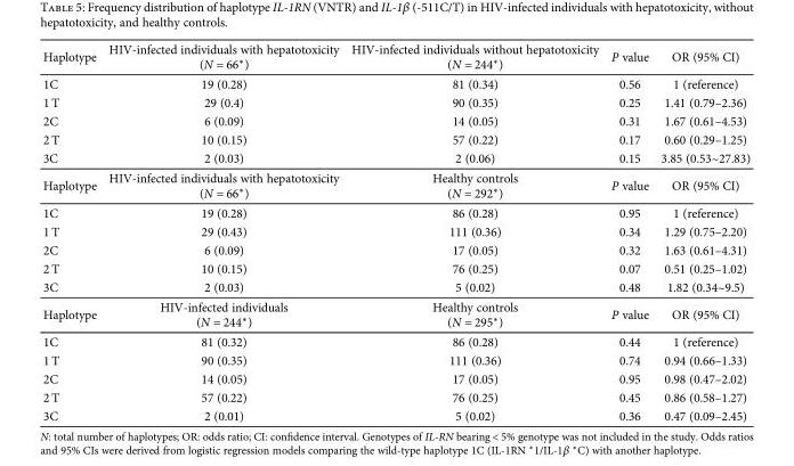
<table><tbody><tr><td>Haplotype</td><td>HIV-infected individuals with hepatotoxicity (N = 66∗)</td><td>HIV-infected individuals without hepatotoxicity (N = 244∗)</td><td>P value</td><td>OR (95% CI)</td></tr><tr><td>1C</td><td>19 (0.28)</td><td>81 (0.34)</td><td>0.56</td><td>1 (reference)</td></tr><tr><td>1 T</td><td>29 (0.4)</td><td>90 (0.35)</td><td>0.25</td><td>1.41 (0.79–2.36)</td></tr><tr><td>2C</td><td>6 (0.09)</td><td>14 (0.05)</td><td>0.31</td><td>1.67 (0.61–4.53)</td></tr><tr><td>2 T</td><td>10 (0.15)</td><td>57 (0.22)</td><td>0.17</td><td>0.60 (0.29–1.25)</td></tr><tr><td>3C</td><td>2 (0.03)</td><td>2 (0.06)</td><td>0.15</td><td>3.85 (0.53~27.83)</td></tr><tr><td>Haplotype</td><td>HIV-infected individuals with hepatotoxicity (N = 66∗)</td><td>Healthy controls (N = 292∗)</td><td>P value</td><td>OR (95% CI)</td></tr><tr><td>1C</td><td>19 (0.28)</td><td>86 (0.28)</td><td>0.95</td><td>1 (reference)</td></tr><tr><td>1 T</td><td>29 (0.43)</td><td>111 (0.36)</td><td>0.34</td><td>1.29 (0.75–2.20)</td></tr><tr><td>2C</td><td>6 (0.09)</td><td>17 (0.05)</td><td>0.32</td><td>1.63 (0.61–4.31)</td></tr><tr><td>2 T</td><td>10 (0.15)</td><td>76 (0.25)</td><td>0.07</td><td>0.51 (0.25–1.02)</td></tr><tr><td>3C</td><td>2 (0.03)</td><td>5 (0.02)</td><td>0.48</td><td>1.82 (0.34~9.5)</td></tr><tr><td>Haplotype</td><td>HIV-infected individuals (N = 244∗)</td><td>Healthy controls (N = 295∗)</td><td>P value</td><td>OR (95% CI)</td></tr><tr><td>1C</td><td>81 (0.32)</td><td>86 (0.28)</td><td>0.44</td><td>1 (reference)</td></tr><tr><td>1 T</td><td>90 (0.35)</td><td>111 (0.36)</td><td>0.74</td><td>0.94 (0.66–1.33)</td></tr><tr><td>2C</td><td>14 (0.05)</td><td>17 (0.05)</td><td>0.95</td><td>0.98 (0.47–2.02)</td></tr><tr><td>2 T</td><td>57 (0.22)</td><td>76 (0.25)</td><td>0.45</td><td>0.86 (0.58–1.27)</td></tr><tr><td>3C</td><td>2 (0.01)</td><td>5 (0.02)</td><td>0.36</td><td>0.47 (0.09–2.45)</td></tr></tbody></table>